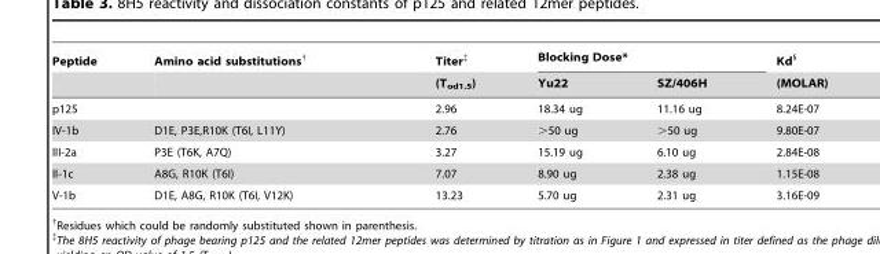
<table><thead><tr><td rowspan="2">Peptide</td><td rowspan="2">Amino acid substitutions†</td><td rowspan="2">Titer‡ (T<sub>od1.5</sub>)</td><td colspan="2">Blocking Dose*</td><td rowspan="2">Kd§ (MOLAR)</td></tr><tr><td>Yu22</td><td>SZ/406H</td></tr></thead><tbody><tr><td>p125</td><td></td><td>2.96</td><td>18.34 ug</td><td>11.16 ug</td><td>8.24E-07</td></tr><tr><td>IV-1b</td><td>D1E, P3E,R10K (T6I, L11Y)</td><td>2.76</td><td>&gt;50 ug</td><td>&gt;50 ug</td><td>9.80E-07</td></tr><tr><td>III-2a</td><td>P3E (T6K, A7Q)</td><td>3.27</td><td>15.19 ug</td><td>6.10 ug</td><td>2.84E-08</td></tr><tr><td>II-1c</td><td>A8G, R10K (T6I)</td><td>7.07</td><td>8.90 ug</td><td>2.38 ug</td><td>1.15E-08</td></tr><tr><td>V-1b</td><td>D1E, A8G, R10K (T6I, V12K)</td><td>13.23</td><td>5.70 ug</td><td>2.31 ug</td><td>3.16E-09</td></tr></tbody></table>